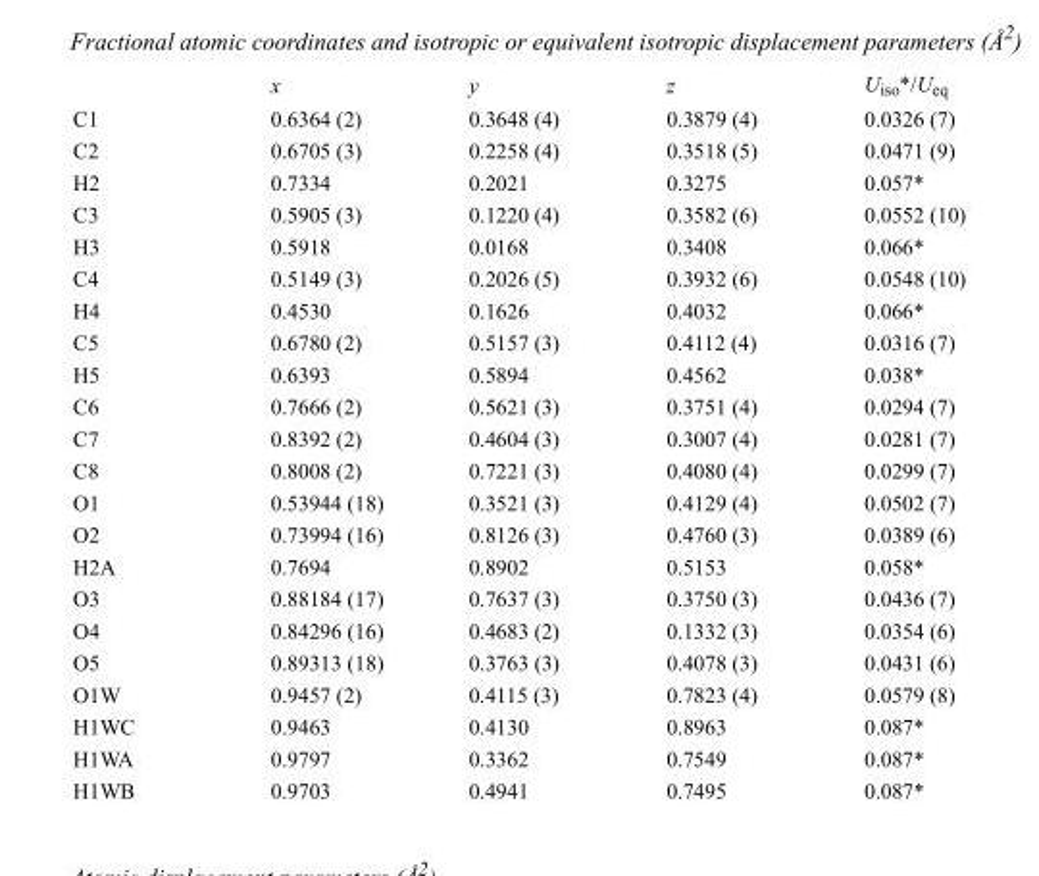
<table><thead><tr><td></td><td>x</td><td>y</td><td>z</td><td>U<sub>iso</sub>*/U<sub>eq</sub></td></tr></thead><tbody><tr><td>C1</td><td>0.6364 (2)</td><td>0.3648 (4)</td><td>0.3879 (4)</td><td>0.0326 (7)</td></tr><tr><td>C2</td><td>0.6705 (3)</td><td>0.2258 (4)</td><td>0.3518 (5)</td><td>0.0471 (9)</td></tr><tr><td>H2</td><td>0.7334</td><td>0.2021</td><td>0.3275</td><td>0.057*</td></tr><tr><td>C3</td><td>0.5905 (3)</td><td>0.1220 (4)</td><td>0.3582 (6)</td><td>0.0552 (10)</td></tr><tr><td>H3</td><td>0.5918</td><td>0.0168</td><td>0.3408</td><td>0.066*</td></tr><tr><td>C4</td><td>0.5149 (3)</td><td>0.2026 (5)</td><td>0.3932 (6)</td><td>0.0548 (10)</td></tr><tr><td>H4</td><td>0.4530</td><td>0.1626</td><td>0.4032</td><td>0.066*</td></tr><tr><td>C5</td><td>0.6780 (2)</td><td>0.5157 (3)</td><td>0.4112 (4)</td><td>0.0316 (7)</td></tr><tr><td>H5</td><td>0.6393</td><td>0.5894</td><td>0.4562</td><td>0.038*</td></tr><tr><td>C6</td><td>0.7666 (2)</td><td>0.5621 (3)</td><td>0.3751 (4)</td><td>0.0294 (7)</td></tr><tr><td>C7</td><td>0.8392 (2)</td><td>0.4604 (3)</td><td>0.3007 (4)</td><td>0.0281 (7)</td></tr><tr><td>C8</td><td>0.8008 (2)</td><td>0.7221 (3)</td><td>0.4080 (4)</td><td>0.0299 (7)</td></tr><tr><td>O1</td><td>0.53944 (18)</td><td>0.3521 (3)</td><td>0.4129 (4)</td><td>0.0502 (7)</td></tr><tr><td>O2</td><td>0.73994 (16)</td><td>0.8126 (3)</td><td>0.4760 (3)</td><td>0.0389 (6)</td></tr><tr><td>H2A</td><td>0.7694</td><td>0.8902</td><td>0.5153</td><td>0.058*</td></tr><tr><td>O3</td><td>0.88184 (17)</td><td>0.7637 (3)</td><td>0.3750 (3)</td><td>0.0436 (7)</td></tr><tr><td>O4</td><td>0.84296 (16)</td><td>0.4683 (2)</td><td>0.1332 (3)</td><td>0.0354 (6)</td></tr><tr><td>O5</td><td>0.89313 (18)</td><td>0.3763 (3)</td><td>0.4078 (3)</td><td>0.0431 (6)</td></tr><tr><td>O1W</td><td>0.9457 (2)</td><td>0.4115 (3)</td><td>0.7823 (4)</td><td>0.0579 (8)</td></tr><tr><td>H1WC</td><td>0.9463</td><td>0.4130</td><td>0.8963</td><td>0.087*</td></tr><tr><td>H1WA</td><td>0.9797</td><td>0.3362</td><td>0.7549</td><td>0.087*</td></tr><tr><td>H1WB</td><td>0.9703</td><td>0.4941</td><td>0.7495</td><td>0.087*</td></tr></tbody></table>